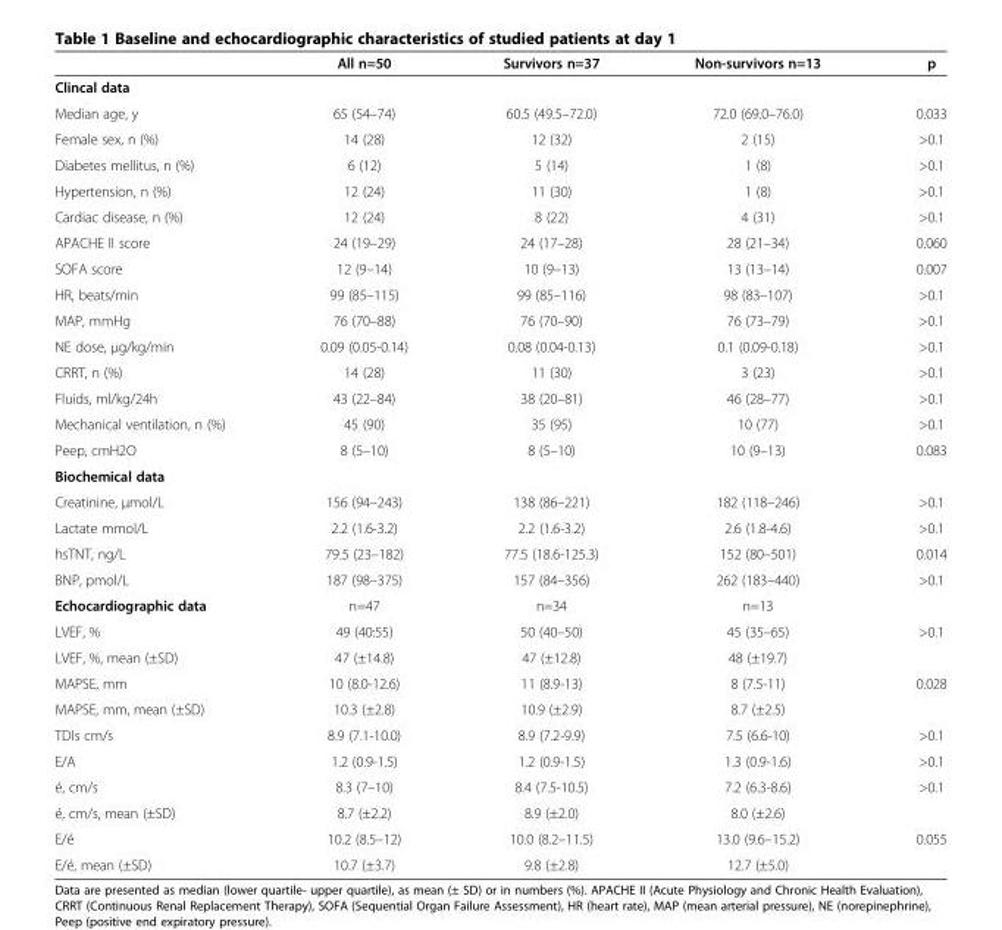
<table><thead><tr><td></td><td>All n=50</td><td>Survivors n=37</td><td>Non-survivors n=13</td><td>p</td></tr></thead><tbody><tr><td colspan="5">Clincal data</td></tr><tr><td>Median age, y</td><td>65 (54–74)</td><td>60.5 (49.5–72.0)</td><td>72.0 (69.0–76.0)</td><td>0.033</td></tr><tr><td>Female sex, n (%)</td><td>14 (28)</td><td>12 (32)</td><td>2 (15)</td><td>&gt;0.1</td></tr><tr><td>Diabetes mellitus, n (%)</td><td>6 (12)</td><td>5 (14)</td><td>1 (8)</td><td>&gt;0.1</td></tr><tr><td>Hypertension, n (%)</td><td>12 (24)</td><td>11 (30)</td><td>1 (8)</td><td>&gt;0.1</td></tr><tr><td>Cardiac disease, n (%)</td><td>12 (24)</td><td>8 (22)</td><td>4 (31)</td><td>&gt;0.1</td></tr><tr><td>APACHE II score</td><td>24 (19–29)</td><td>24 (17–28)</td><td>28 (21–34)</td><td>0.060</td></tr><tr><td>SOFA score</td><td>12 (9–14)</td><td>10 (9–13)</td><td>13 (13–14)</td><td>0.007</td></tr><tr><td>HR, beats/min</td><td>99 (85–115)</td><td>99 (85–116)</td><td>98 (83–107)</td><td>&gt;0.1</td></tr><tr><td>MAP, mmHg</td><td>76 (70–88)</td><td>76 (70–90)</td><td>76 (73–79)</td><td>&gt;0.1</td></tr><tr><td>NE dose, μg/kg/min</td><td>0.09 (0.05-0.14)</td><td>0.08 (0.04-0.13)</td><td>0.1 (0.09-0.18)</td><td>&gt;0.1</td></tr><tr><td>CRRT, n (%)</td><td>14 (28)</td><td>11 (30)</td><td>3 (23)</td><td>&gt;0.1</td></tr><tr><td>Fluids, ml/kg/24h</td><td>43 (22–84)</td><td>38 (20–81)</td><td>46 (28–77)</td><td>&gt;0.1</td></tr><tr><td>Mechanical ventilation, n (%)</td><td>45 (90)</td><td>35 (95)</td><td>10 (77)</td><td>&gt;0.1</td></tr><tr><td>Peep, cmH2O</td><td>8 (5–10)</td><td>8 (5–10)</td><td>10 (9–13)</td><td>0.083</td></tr><tr><td colspan="5">Biochemical data</td></tr><tr><td>Creatinine, μmol/L</td><td>156 (94–243)</td><td>138 (86–221)</td><td>182 (118–246)</td><td>&gt;0.1</td></tr><tr><td>Lactate mmol/L</td><td>2.2 (1.6-3.2)</td><td>2.2 (1.6-3.2)</td><td>2.6 (1.8-4.6)</td><td>&gt;0.1</td></tr><tr><td>hsTNT, ng/L</td><td>79.5 (23–182)</td><td>77.5 (18.6-125.3)</td><td>152 (80–501)</td><td>0.014</td></tr><tr><td>BNP, pmol/L</td><td>187 (98–375)</td><td>157 (84–356)</td><td>262 (183–440)</td><td>&gt;0.1</td></tr><tr><td>Echocardiographic data</td><td>n=47</td><td>n=34</td><td>n=13</td><td></td></tr><tr><td>LVEF, %</td><td>49 (40:55)</td><td>50 (40–50)</td><td>45 (35–65)</td><td>&gt;0.1</td></tr><tr><td>LVEF, %, mean (±SD)</td><td>47 (±14.8)</td><td>47 (±12.8)</td><td>48 (±19.7)</td><td></td></tr><tr><td>MAPSE, mm</td><td>10 (8.0-12.6)</td><td>11 (8.9-13)</td><td>8 (7.5-11)</td><td>0.028</td></tr><tr><td>MAPSE, mm, mean (±SD)</td><td>10.3 (±2.8)</td><td>10.9 (±2.9)</td><td>8.7 (±2.5)</td><td></td></tr><tr><td>TDIs cm/s</td><td>8.9 (7.1-10.0)</td><td>8.9 (7.2-9.9)</td><td>7.5 (6.6-10)</td><td>&gt;0.1</td></tr><tr><td>E/A</td><td>1.2 (0.9-1.5)</td><td>1.2 (0.9-1.5)</td><td>1.3 (0.9-1.6)</td><td>&gt;0.1</td></tr><tr><td>é, cm/s</td><td>8.3 (7–10)</td><td>8.4 (7.5-10.5)</td><td>7.2 (6.3-8.6)</td><td>&gt;0.1</td></tr><tr><td>é, cm/s, mean (±SD)</td><td>8.7 (±2.2)</td><td>8.9 (±2.0)</td><td>8.0 (±2.6)</td><td></td></tr><tr><td>E/é</td><td>10.2 (8.5–12)</td><td>10.0 (8.2–11.5)</td><td>13.0 (9.6–15.2)</td><td>0.055</td></tr><tr><td>E/é, mean (±SD)</td><td>10.7 (±3.7)</td><td>9.8 (±2.8)</td><td>12.7 (±5.0)</td><td></td></tr></tbody></table>